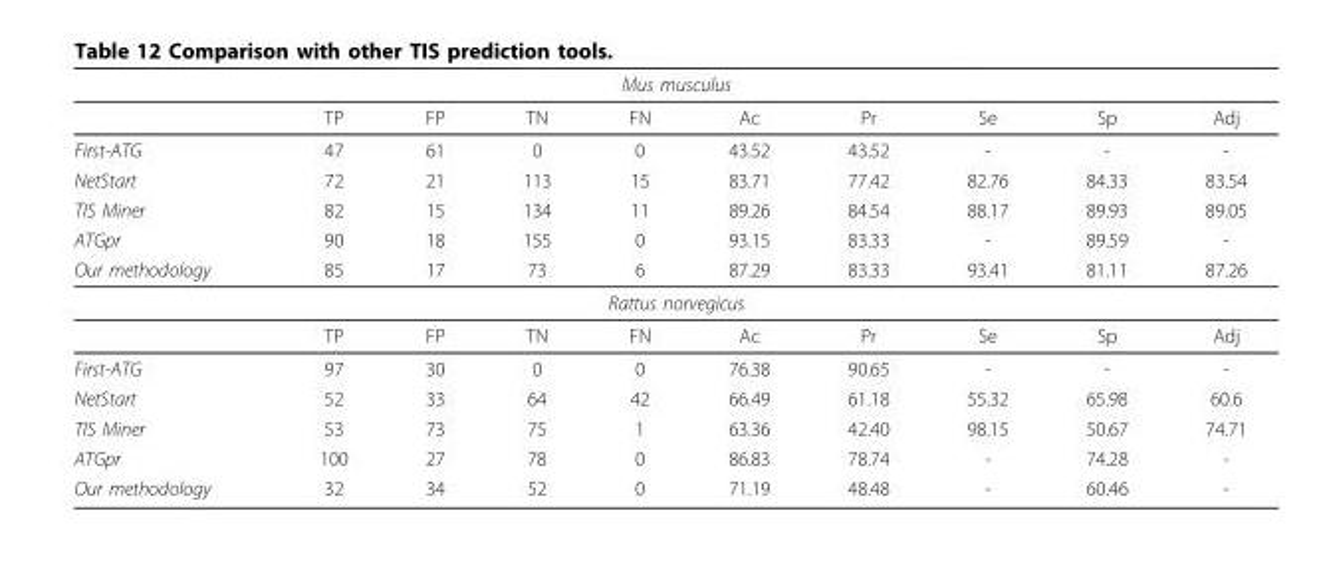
<table><thead><tr><td colspan="10">Mus musculus</td></tr><tr><td></td><td>TP</td><td>FP</td><td>TN</td><td>FN</td><td>Ac</td><td>Pr</td><td>Se</td><td>Sp</td><td>Adj</td></tr></thead><tbody><tr><td>First-ATG</td><td>47</td><td>61</td><td>0</td><td>0</td><td>43.52</td><td>43.52</td><td>-</td><td>-</td><td>-</td></tr><tr><td>NetStart</td><td>72</td><td>21</td><td>113</td><td>15</td><td>83.71</td><td>77.42</td><td>82.76</td><td>84.33</td><td>83.54</td></tr><tr><td>TIS Miner</td><td>82</td><td>15</td><td>134</td><td>11</td><td>89.26</td><td>84.54</td><td>88.17</td><td>89.93</td><td>89.05</td></tr><tr><td>ATGpr</td><td>90</td><td>18</td><td>155</td><td>0</td><td>93.15</td><td>83.33</td><td>-</td><td>89.59</td><td>-</td></tr><tr><td>Our methodology</td><td>85</td><td>17</td><td>73</td><td>6</td><td>87.29</td><td>83.33</td><td>93.41</td><td>81.11</td><td>87.26</td></tr><tr><td colspan="10">Rattus norvegicus</td></tr><tr><td></td><td>TP</td><td>FP</td><td>TN</td><td>FN</td><td>Ac</td><td>Pr</td><td>Se</td><td>Sp</td><td>Adj</td></tr><tr><td>First-ATG</td><td>97</td><td>30</td><td>0</td><td>0</td><td>76.38</td><td>90.65</td><td>-</td><td>-</td><td>-</td></tr><tr><td>NetStart</td><td>52</td><td>33</td><td>64</td><td>42</td><td>66.49</td><td>61.18</td><td>55.32</td><td>65.98</td><td>60.6</td></tr><tr><td>TIS Miner</td><td>53</td><td>73</td><td>75</td><td>1</td><td>63.36</td><td>42.40</td><td>98.15</td><td>50.67</td><td>74.71</td></tr><tr><td>ATGpr</td><td>100</td><td>27</td><td>78</td><td>0</td><td>86.83</td><td>78.74</td><td>-</td><td>74.28</td><td>-</td></tr><tr><td>Our methodology</td><td>32</td><td>34</td><td>52</td><td>0</td><td>71.19</td><td>48.48</td><td>-</td><td>60.46</td><td>-</td></tr></tbody></table>